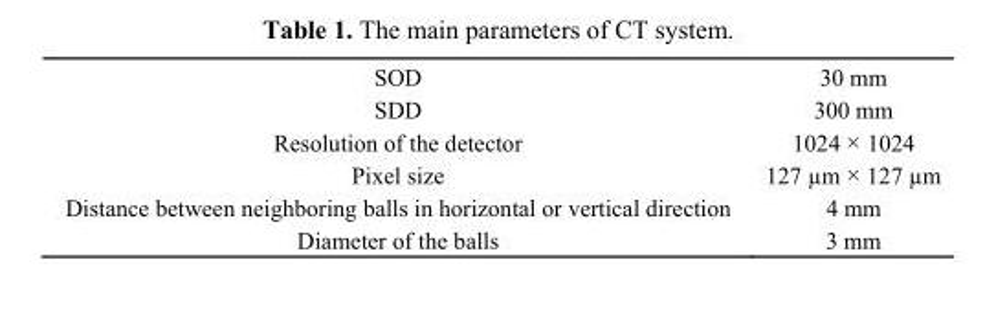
<table><tbody><tr><td>SOD</td><td>30 mm</td></tr><tr><td>SDD</td><td>300 mm</td></tr><tr><td>Resolution of the detector</td><td>1024 × 1024</td></tr><tr><td>Pixel size</td><td>127 µm × 127 µm</td></tr><tr><td>Distance between neighboring balls in horizontal or vertical direction</td><td>4 mm</td></tr><tr><td>Diameter of the balls</td><td>3 mm</td></tr></tbody></table>